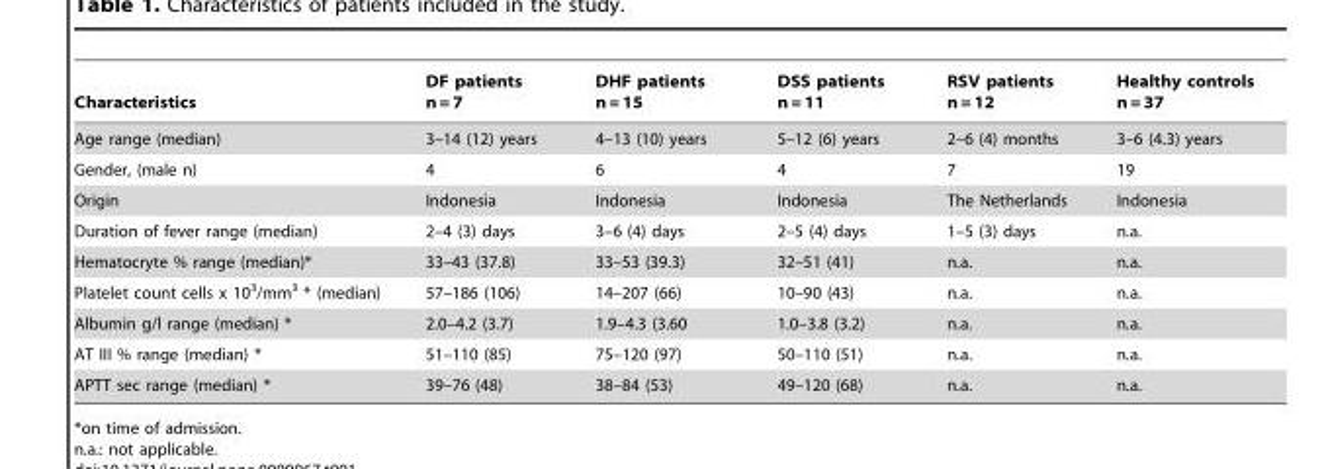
<table><thead><tr><td>Characteristics</td><td>DF patients n = 7</td><td>DHF patients n = 15</td><td>DSS patients n = 11</td><td>RSV patients n = 12</td><td>Healthy controls n = 37</td></tr></thead><tbody><tr><td>Age range (median)</td><td>3–14 (12) years</td><td>4–13 (10) years</td><td>5–12 (6) years</td><td>2–6 (4) months</td><td>3–6 (4.3) years</td></tr><tr><td>Gender, (male n)</td><td>4</td><td>6</td><td>4</td><td>7</td><td>19</td></tr><tr><td>Origin</td><td>Indonesia</td><td>Indonesia</td><td>Indonesia</td><td>The Netherlands</td><td>Indonesia</td></tr><tr><td>Duration of fever range (median)</td><td>2–4 (3) days</td><td>3–6 (4) days</td><td>2–5 (4) days</td><td>1–5 (3) days</td><td>n.a.</td></tr><tr><td>Hematocryte % range (median)*</td><td>33–43 (37.8)</td><td>33–53 (39.3)</td><td>32–51 (41)</td><td>n.a.</td><td>n.a.</td></tr><tr><td>Platelet count cells x 10<sup>3</sup>/mm<sup>3</sup> * (median)</td><td>57–186 (106)</td><td>14–207 (66)</td><td>10–90 (43)</td><td>n.a.</td><td>n.a.</td></tr><tr><td>Albumin g/l range (median) *</td><td>2.0–4.2 (3.7)</td><td>1.9–4.3 (3.60</td><td>1.0–3.8 (3.2)</td><td>n.a.</td><td>n.a.</td></tr><tr><td>AT III % range (median) *</td><td>51–110 (85)</td><td>75–120 (97)</td><td>50–110 (51)</td><td>n.a.</td><td>n.a.</td></tr><tr><td>APTT sec range (median) *</td><td>39–76 (48)</td><td>38–84 (53)</td><td>49–120 (68)</td><td>n.a.</td><td>n.a.</td></tr></tbody></table>